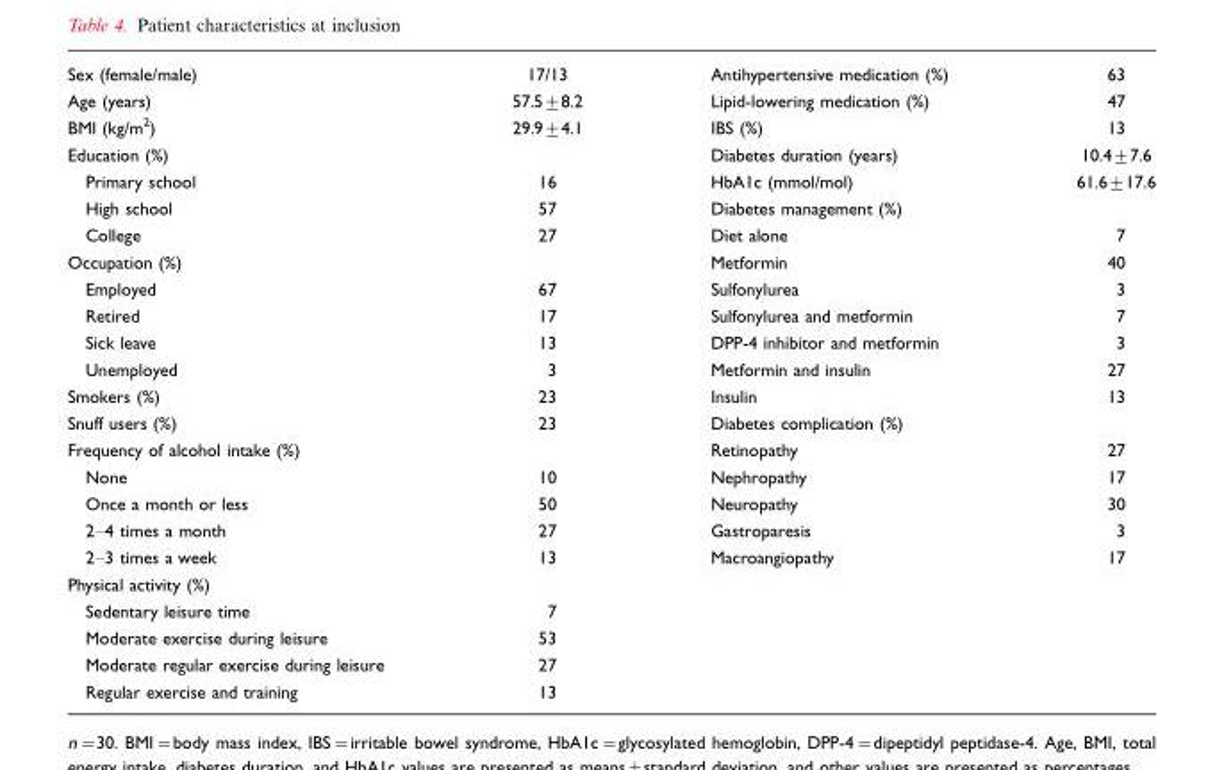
<table><tbody><tr><td>Sex (female/male)</td><td>17/13</td><td>Antihypertensive medication (%)</td><td>63</td></tr><tr><td>Age (years)</td><td>57.5±8.2</td><td>Lipid-lowering medication (%)</td><td>47</td></tr><tr><td>BMI (kg/m<sup>2</sup>)</td><td>29.9±4.1</td><td>IBS (%)</td><td>13</td></tr><tr><td>Education (%)</td><td></td><td>Diabetes duration (years)</td><td>10.4±7.6</td></tr><tr><td>Primary school</td><td>16</td><td>HbA1c (mmol/mol)</td><td>61.6±17.6</td></tr><tr><td>High school</td><td>57</td><td>Diabetes management (%)</td><td></td></tr><tr><td>College</td><td>27</td><td>Diet alone</td><td>7</td></tr><tr><td>Occupation (%)</td><td></td><td>Metformin</td><td>40</td></tr><tr><td>Employed</td><td>67</td><td>Sulfonylurea</td><td>3</td></tr><tr><td>Retired</td><td>17</td><td>Sulfonylurea and metformin</td><td>7</td></tr><tr><td>Sick leave</td><td>13</td><td>DPP-4 inhibitor and metformin</td><td>3</td></tr><tr><td>Unemployed</td><td>3</td><td>Metformin and insulin</td><td>27</td></tr><tr><td>Smokers (%)</td><td>23</td><td>Insulin</td><td>13</td></tr><tr><td>Snuff users (%)</td><td>23</td><td>Diabetes complication (%)</td><td></td></tr><tr><td>Frequency of alcohol intake (%)</td><td></td><td>Retinopathy</td><td>27</td></tr><tr><td>None</td><td>10</td><td>Nephropathy</td><td>17</td></tr><tr><td>Once a month or less</td><td>50</td><td>Neuropathy</td><td>30</td></tr><tr><td>2–4 times a month</td><td>27</td><td>Gastroparesis</td><td>3</td></tr><tr><td>2–3 times a week</td><td>13</td><td>Macroangiopathy</td><td>17</td></tr><tr><td colspan="4">Physical activity (%)</td></tr><tr><td>Sedentary leisure time</td><td>7</td><td></td><td></td></tr><tr><td>Moderate exercise during leisure</td><td>53</td><td></td><td></td></tr><tr><td>Moderate regular exercise during leisure</td><td>27</td><td></td><td></td></tr><tr><td>Regular exercise and training</td><td>13</td><td></td><td></td></tr></tbody></table>